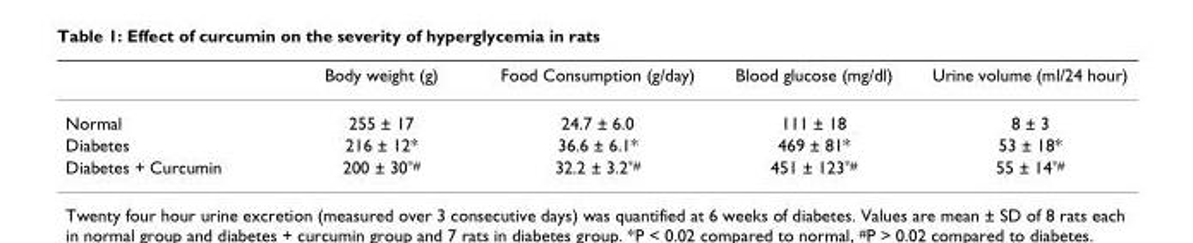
<table><thead><tr><td></td><td>Body weight (g)</td><td>Food Consumption (g/day)</td><td>Blood glucose (mg/dl)</td><td>Urine volume (ml/24 hour)</td></tr></thead><tbody><tr><td>Normal</td><td>255 ± 17</td><td>24.7 ± 6.0</td><td>111 ± 18</td><td>8 ± 3</td></tr><tr><td>Diabetes</td><td>216 ± 12*</td><td>36.6 ± 6.1*</td><td>469 ± 81*</td><td>53 ± 18*</td></tr><tr><td>Diabetes + Curcumin</td><td>200 ± 30<sup>*#</sup></td><td>32.2 ± 3.2<sup>*#</sup></td><td>451 ± 123<sup>*#</sup></td><td>55 ± 14<sup>*#</sup></td></tr></tbody></table>